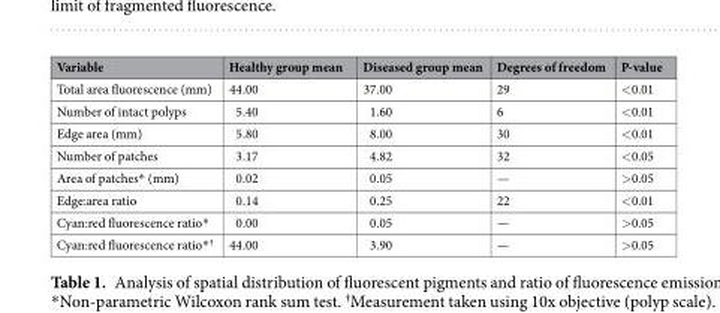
<table><thead><tr><td>Variable</td><td>Healthy group mean</td><td>Diseased group mean</td><td>Degrees of freedom</td><td>P-value</td></tr></thead><tbody><tr><td>Total area fluorescence (mm)</td><td>44.00</td><td>37.00</td><td>29</td><td>&lt;0.01</td></tr><tr><td>Number of intact polyps</td><td>5.40</td><td>1.60</td><td>6</td><td>&lt;0.01</td></tr><tr><td>Edge area (mm)</td><td>5.80</td><td>8.00</td><td>30</td><td>&lt;0.01</td></tr><tr><td>Number of patches</td><td>3.17</td><td>4.82</td><td>32</td><td>&lt;0.05</td></tr><tr><td>Area of patches* (mm)</td><td>0.02</td><td>0.05</td><td>—</td><td>&gt;0.05</td></tr><tr><td>Edge:area ratio</td><td>0.14</td><td>0.25</td><td>22</td><td>&lt;0.01</td></tr><tr><td>Cyan:red fluorescence ratio*</td><td>0.00</td><td>0.05</td><td>—</td><td>&gt;0.05</td></tr><tr><td>Cyan:red fluorescence ratio*<sup>†</sup></td><td>44.00</td><td>3.90</td><td>—</td><td>&gt;0.05</td></tr></tbody></table>